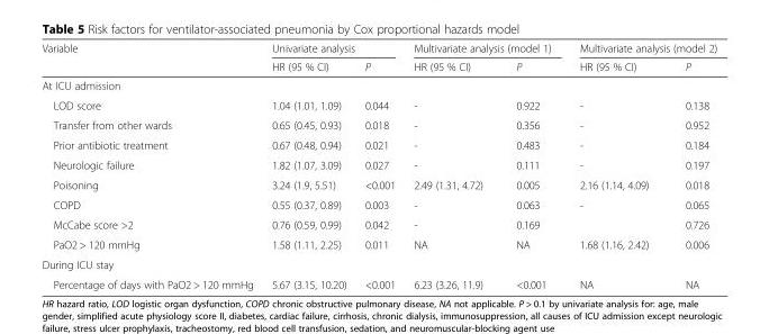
<table><thead><tr><td rowspan="2">Variable</td><td colspan="2">Univariate analysis</td><td colspan="2">Multivariate analysis (model 1)</td><td colspan="2">Multivariate analysis (model 2)</td></tr><tr><td>HR (95 % CI)</td><td>P</td><td>HR (95 % CI)</td><td>P</td><td>HR (95 % CI)</td><td>P</td></tr></thead><tbody><tr><td colspan="7">At ICU admission</td></tr><tr><td>LOD score</td><td>1.04 (1.01, 1.09)</td><td>0.044</td><td>-</td><td>0.922</td><td>-</td><td>0.138</td></tr><tr><td>Transfer from other wards</td><td>0.65 (0.45, 0.93)</td><td>0.018</td><td>-</td><td>0.356</td><td>-</td><td>0.952</td></tr><tr><td>Prior antibiotic treatment</td><td>0.67 (0.48, 0.94)</td><td>0.021</td><td>-</td><td>0.483</td><td>-</td><td>0.184</td></tr><tr><td>Neurologic failure</td><td>1.82 (1.07, 3.09)</td><td>0.027</td><td>-</td><td>0.111</td><td>-</td><td>0.197</td></tr><tr><td>Poisoning</td><td>3.24 (1.9, 5.51)</td><td>&lt;0.001</td><td>2.49 (1.31, 4.72)</td><td>0.005</td><td>2.16 (1.14, 4.09)</td><td>0.018</td></tr><tr><td>COPD</td><td>0.55 (0.37, 0.89)</td><td>0.003</td><td>-</td><td>0.063</td><td>-</td><td>0.065</td></tr><tr><td>McCabe score &gt;2</td><td>0.76 (0.59, 0.99)</td><td>0.042</td><td>-</td><td>0.169</td><td></td><td>0.726</td></tr><tr><td>PaO2 &gt; 120 mmHg</td><td>1.58 (1.11, 2.25)</td><td>0.011</td><td>NA</td><td>NA</td><td>1.68 (1.16, 2.42)</td><td>0.006</td></tr><tr><td colspan="7">During ICU stay</td></tr><tr><td>Percentage of days with PaO2 &gt; 120 mmHg</td><td>5.67 (3.15, 10.20)</td><td>&lt;0.001</td><td>6.23 (3.26, 11.9)</td><td>&lt;0.001</td><td>NA</td><td>NA</td></tr></tbody></table>